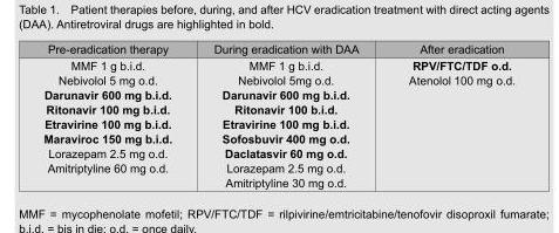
<table><thead><tr><td>Pre-eradication therapy</td><td>During eradication with DAA</td><td>After eradication</td></tr></thead><tbody><tr><td>MMF 1 g b.i.d. Nebivolol 5 mg o.d. Darunavir 600 mg b.i.d. Ritonavir 100 mg b.i.d. Etravirine 100 mg b.i.d. Maraviroc 150 mg b.i.d. Lorazepam 2.5 mg o.d. Amitriptyline 60 mg o.d.</td><td>MMF 1 g b.i.d. Nebivolol 5mg o.d. Darunavir 600 mg b.i.d. Ritonavir 100 b.i.d. Etravirine 100 mg b.i.d. Sofosbuvir 400 mg o.d. Daclatasvir 60 mg o.d. Lorazepam 2.5 mg o.d. Amitriptyline 30 mg o.d.</td><td>RPV/FTC/TDF o.d. Atenolol 100 mg o.d.</td></tr></tbody></table>